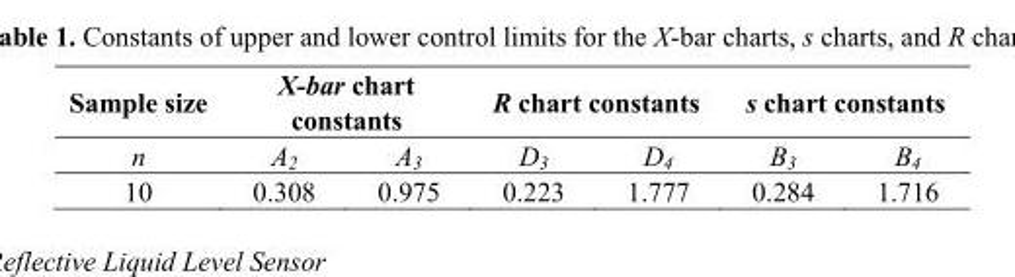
<table><thead><tr><td rowspan="2">Sample size n</td><td colspan="2">X-bar chart constants</td><td colspan="2">R chart constants</td><td colspan="2">s chart constants</td></tr><tr><td>A<sub>2</sub></td><td>A<sub>3</sub></td><td>D<sub>3</sub></td><td>D<sub>4</sub></td><td>B<sub>3</sub></td><td>B<sub>4</sub></td></tr></thead><tbody><tr><td>10</td><td>0.308</td><td>0.975</td><td>0.223</td><td>1.777</td><td>0.284</td><td>1.716</td></tr></tbody></table>